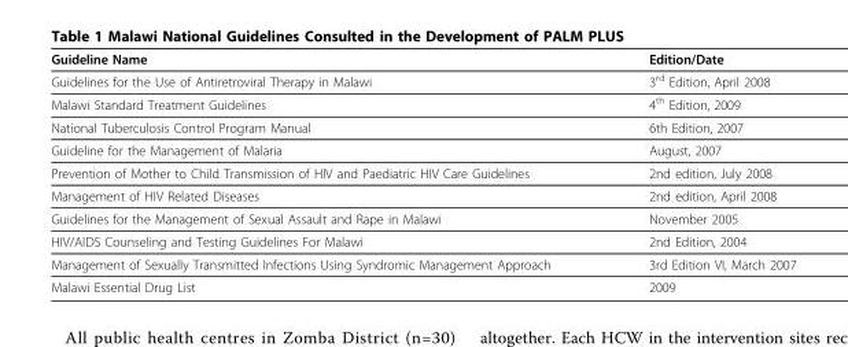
<table><thead><tr><td>Guideline Name</td><td>Edition/Date</td></tr></thead><tbody><tr><td>Guidelines for the Use of Antiretroviral Therapy in Malawi</td><td>3<sup>rd</sup> Edition, April 2008</td></tr><tr><td>Malawi Standard Treatment Guidelines</td><td>4<sup>th</sup> Edition, 2009</td></tr><tr><td>National Tuberculosis Control Program Manual</td><td>6th Edition, 2007</td></tr><tr><td>Guideline for the Management of Malaria</td><td>August, 2007</td></tr><tr><td>Prevention of Mother to Child Transmission of HIV and Paediatric HIV Care Guidelines</td><td>2nd edition, July 2008</td></tr><tr><td>Management of HIV Related Diseases</td><td>2nd edition, April 2008</td></tr><tr><td>Guidelines for the Management of Sexual Assault and Rape in Malawi</td><td>November 2005</td></tr><tr><td>HIV/AIDS Counseling and Testing Guidelines For Malawi</td><td>2nd Edition, 2004</td></tr><tr><td>Management of Sexually Transmitted Infections Using Syndromic Management Approach</td><td>3rd Edition VI, March 2007</td></tr><tr><td>Malawi Essential Drug List</td><td>2009</td></tr></tbody></table>